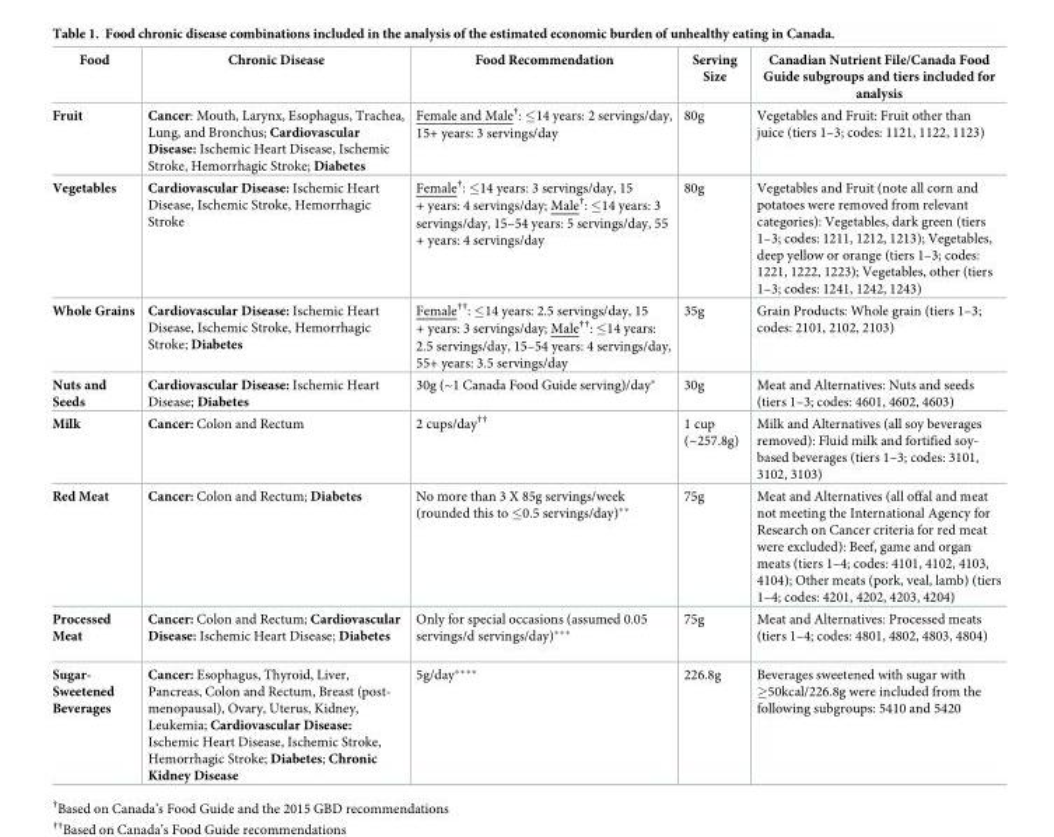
<table><thead><tr><td>Food</td><td>Chronic Disease</td><td>Food Recommendation</td><td>Serving Size</td><td>Canadian Nutrient File/Canada Food Guide subgroups and tiers included for analysis</td></tr></thead><tbody><tr><td>Fruit</td><td>Cancer: Mouth, Larynx, Esophagus, Trachea, Lung, and Bronchus; Cardiovascular Disease: Ischemic Heart Disease, Ischemic Stroke, Hemorrhagic Stroke; Diabetes</td><td>Female and Male<sup>†</sup>: ≤14 years: 2 servings/day, 15+ years: 3 servings/day</td><td>80g</td><td>Vegetables and Fruit: Fruit other than juice (tiers 1–3; codes: 1121, 1122, 1123)</td></tr><tr><td>Vegetables</td><td>Cardiovascular Disease: Ischemic Heart Disease, Ischemic Stroke, Hemorrhagic Stroke</td><td>Female<sup>†</sup>: ≤14 years: 3 servings/day, 15 + years: 4 servings/day; Male<sup>†</sup>: ≤14 years: 3 servings/day, 15–54 years: 5 servings/day, 55 + years: 4 servings/day</td><td>80g</td><td>Vegetables and Fruit (note all corn and potatoes were removed from relevant categories): Vegetables, dark green (tiers 1–3; codes: 1211, 1212, 1213); Vegetables, deep yellow or orange (tiers 1–3; codes: 1221, 1222, 1223); Vegetables, other (tiers 1–3; codes: 1241, 1242, 1243)</td></tr><tr><td>Whole Grains</td><td>Cardiovascular Disease: Ischemic Heart Disease, Ischemic Stroke, Hemorrhagic Stroke; Diabetes</td><td>Female<sup>††</sup>: ≤14 years: 2.5 servings/day, 15 + years: 3 servings/day; Male<sup>††</sup>: ≤14 years: 2.5 servings/day, 15–54 years: 4 servings/day, 55+ years: 3.5 servings/day</td><td>35g</td><td>Grain Products: Whole grain (tiers 1–3; codes: 2101, 2102, 2103)</td></tr><tr><td>Nuts and Seeds</td><td>Cardiovascular Disease: Ischemic Heart Disease; Diabetes</td><td>30g (~1 Canada Food Guide serving)/day*</td><td>30g</td><td>Meat and Alternatives: Nuts and seeds (tiers 1–3; codes: 4601, 4602, 4603)</td></tr><tr><td>Milk</td><td>Cancer: Colon and Rectum</td><td>2 cups/day<sup>††</sup></td><td>1 cup (~257.8g)</td><td>Milk and Alternatives (all soy beverages removed): Fluid milk and fortified soy- based beverages (tiers 1–3; codes: 3101, 3102, 3103)</td></tr><tr><td>Red Meat</td><td>Cancer: Colon and Rectum; Diabetes</td><td>No more than 3 X 85g servings/week (rounded this to ≤0.5 servings/day)**</td><td>75g</td><td>Meat and Alternatives (all offal and meat not meeting the International Agency for Research on Cancer criteria for red meat were excluded): Beef, game and organ meats (tiers 1–4; codes: 4101, 4102, 4103, 4104); Other meats (pork, veal, lamb) (tiers 1–4; codes: 4201, 4202, 4203, 4204)</td></tr><tr><td>Processed Meat</td><td>Cancer: Colon and Rectum; Cardiovascular Disease: Ischemic Heart Disease; Diabetes</td><td>Only for special occasions (assumed 0.05 servings/d servings/day)***</td><td>75g</td><td>Meat and Alternatives: Processed meats (tiers 1–4; codes: 4801, 4802, 4803, 4804)</td></tr><tr><td>Sugar- Sweetened Beverages</td><td>Cancer: Esophagus, Thyroid, Liver, Pancreas, Colon and Rectum, Breast (post- menopausal), Ovary, Uterus, Kidney, Leukemia; Cardiovascular Disease: Ischemic Heart Disease, Ischemic Stroke, Hemorrhagic Stroke; Diabetes; Chronic Kidney Disease</td><td>5g/day****</td><td>226.8g</td><td>Beverages sweetened with sugar with ≥50kcal/226.8g were included from the following subgroups: 5410 and 5420</td></tr></tbody></table>